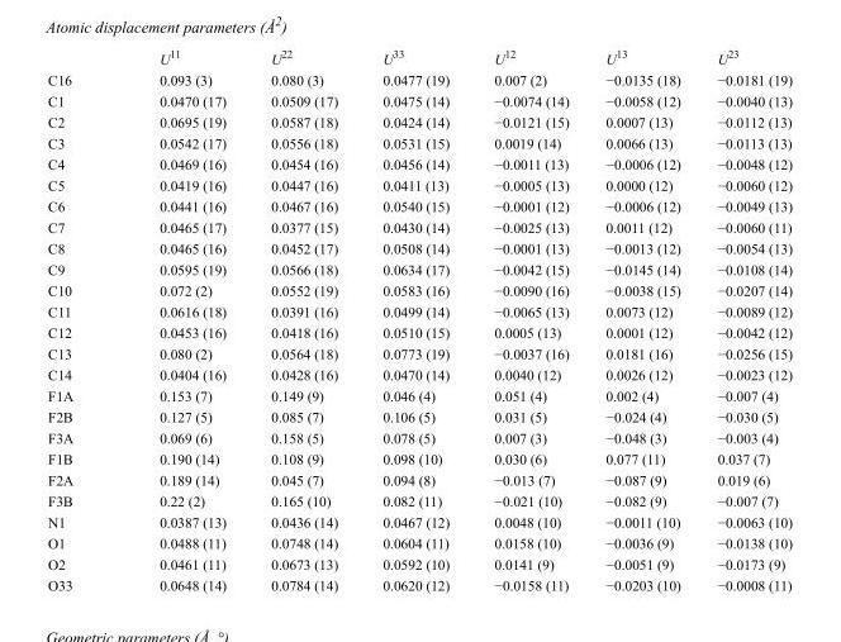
<table><thead><tr><td></td><td>U<sup>11</sup></td><td>U<sup>22</sup></td><td>U<sup>33</sup></td><td>U<sup>12</sup></td><td>U<sup>13</sup></td><td>U<sup>23</sup></td></tr></thead><tbody><tr><td>C16</td><td>0.093 (3)</td><td>0.080 (3)</td><td>0.0477 (19)</td><td>0.007 (2)</td><td>−0.0135 (18)</td><td>−0.0181 (19)</td></tr><tr><td>C1</td><td>0.0470 (17)</td><td>0.0509 (17)</td><td>0.0475 (14)</td><td>−0.0074 (14)</td><td>−0.0058 (12)</td><td>−0.0040 (13)</td></tr><tr><td>C2</td><td>0.0695 (19)</td><td>0.0587 (18)</td><td>0.0424 (14)</td><td>−0.0121 (15)</td><td>0.0007 (13)</td><td>−0.0112 (13)</td></tr><tr><td>C3</td><td>0.0542 (17)</td><td>0.0556 (18)</td><td>0.0531 (15)</td><td>0.0019 (14)</td><td>0.0066 (13)</td><td>−0.0113 (13)</td></tr><tr><td>C4</td><td>0.0469 (16)</td><td>0.0454 (16)</td><td>0.0456 (14)</td><td>−0.0011 (13)</td><td>−0.0006 (12)</td><td>−0.0048 (12)</td></tr><tr><td>C5</td><td>0.0419 (16)</td><td>0.0447 (16)</td><td>0.0411 (13)</td><td>−0.0005 (13)</td><td>0.0000 (12)</td><td>−0.0060 (12)</td></tr><tr><td>C6</td><td>0.0441 (16)</td><td>0.0467 (16)</td><td>0.0540 (15)</td><td>−0.0001 (12)</td><td>−0.0006 (12)</td><td>−0.0049 (13)</td></tr><tr><td>C7</td><td>0.0465 (17)</td><td>0.0377 (15)</td><td>0.0430 (14)</td><td>−0.0025 (13)</td><td>0.0011 (12)</td><td>−0.0060 (11)</td></tr><tr><td>C8</td><td>0.0465 (16)</td><td>0.0452 (17)</td><td>0.0508 (14)</td><td>−0.0001 (13)</td><td>−0.0013 (12)</td><td>−0.0054 (13)</td></tr><tr><td>C9</td><td>0.0595 (19)</td><td>0.0566 (18)</td><td>0.0634 (17)</td><td>−0.0042 (15)</td><td>−0.0145 (14)</td><td>−0.0108 (14)</td></tr><tr><td>C10</td><td>0.072 (2)</td><td>0.0552 (19)</td><td>0.0583 (16)</td><td>−0.0090 (16)</td><td>−0.0038 (15)</td><td>−0.0207 (14)</td></tr><tr><td>C11</td><td>0.0616 (18)</td><td>0.0391 (16)</td><td>0.0499 (14)</td><td>−0.0065 (13)</td><td>0.0073 (12)</td><td>−0.0089 (12)</td></tr><tr><td>C12</td><td>0.0453 (16)</td><td>0.0418 (16)</td><td>0.0510 (15)</td><td>0.0005 (13)</td><td>0.0001 (12)</td><td>−0.0042 (12)</td></tr><tr><td>C13</td><td>0.080 (2)</td><td>0.0564 (18)</td><td>0.0773 (19)</td><td>−0.0037 (16)</td><td>0.0181 (16)</td><td>−0.0256 (15)</td></tr><tr><td>C14</td><td>0.0404 (16)</td><td>0.0428 (16)</td><td>0.0470 (14)</td><td>0.0040 (12)</td><td>0.0026 (12)</td><td>−0.0023 (12)</td></tr><tr><td>F1A</td><td>0.153 (7)</td><td>0.149 (9)</td><td>0.046 (4)</td><td>0.051 (4)</td><td>0.002 (4)</td><td>−0.007 (4)</td></tr><tr><td>F2B</td><td>0.127 (5)</td><td>0.085 (7)</td><td>0.106 (5)</td><td>0.031 (5)</td><td>−0.024 (4)</td><td>−0.030 (5)</td></tr><tr><td>F3A</td><td>0.069 (6)</td><td>0.158 (5)</td><td>0.078 (5)</td><td>0.007 (3)</td><td>−0.048 (3)</td><td>−0.003 (4)</td></tr><tr><td>F1B</td><td>0.190 (14)</td><td>0.108 (9)</td><td>0.098 (10)</td><td>0.030 (6)</td><td>0.077 (11)</td><td>0.037 (7)</td></tr><tr><td>F2A</td><td>0.189 (14)</td><td>0.045 (7)</td><td>0.094 (8)</td><td>−0.013 (7)</td><td>−0.087 (9)</td><td>0.019 (6)</td></tr><tr><td>F3B</td><td>0.22 (2)</td><td>0.165 (10)</td><td>0.082 (11)</td><td>−0.021 (10)</td><td>−0.082 (9)</td><td>−0.007 (7)</td></tr><tr><td>N1</td><td>0.0387 (13)</td><td>0.0436 (14)</td><td>0.0467 (12)</td><td>0.0048 (10)</td><td>−0.0011 (10)</td><td>−0.0063 (10)</td></tr><tr><td>O1</td><td>0.0488 (11)</td><td>0.0748 (14)</td><td>0.0604 (11)</td><td>0.0158 (10)</td><td>−0.0036 (9)</td><td>−0.0138 (10)</td></tr><tr><td>O2</td><td>0.0461 (11)</td><td>0.0673 (13)</td><td>0.0592 (10)</td><td>0.0141 (9)</td><td>−0.0051 (9)</td><td>−0.0173 (9)</td></tr><tr><td>O33</td><td>0.0648 (14)</td><td>0.0784 (14)</td><td>0.0620 (12)</td><td>−0.0158 (11)</td><td>−0.0203 (10)</td><td>−0.0008 (11)</td></tr></tbody></table>